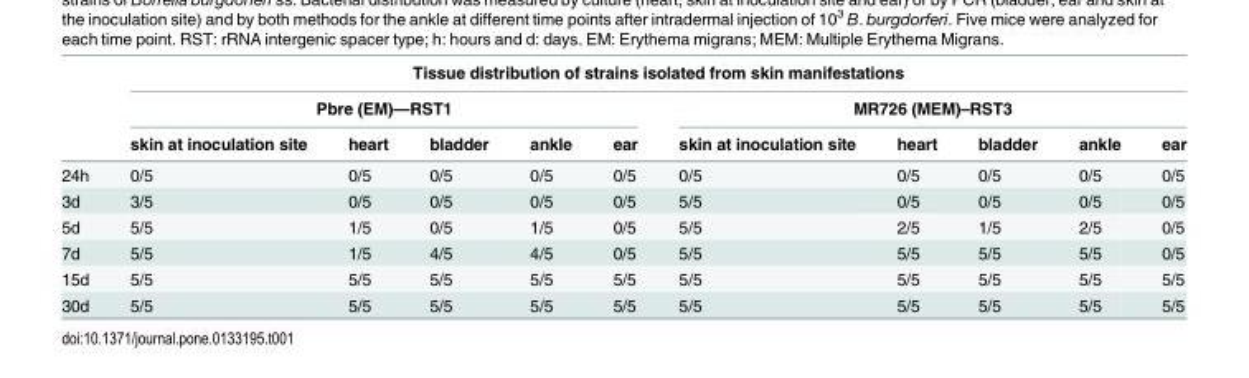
<table><thead><tr><td rowspan="3"></td><td colspan="10">Tissue distribution of strains isolated from skin manifestations</td></tr><tr><td colspan="5">Pbre (EM)—RST1</td><td colspan="5">MR726 (MEM)–RST3</td></tr><tr><td>skin at inoculation site</td><td>heart</td><td>bladder</td><td>ankle</td><td>ear</td><td>skin at inoculation site</td><td>heart</td><td>bladder</td><td>ankle</td><td>ear</td></tr></thead><tbody><tr><td>24h</td><td>0/5</td><td>0/5</td><td>0/5</td><td>0/5</td><td>0/5</td><td>0/5</td><td>0/5</td><td>0/5</td><td>0/5</td><td>0/5</td></tr><tr><td>3d</td><td>3/5</td><td>0/5</td><td>0/5</td><td>0/5</td><td>0/5</td><td>5/5</td><td>0/5</td><td>0/5</td><td>0/5</td><td>0/5</td></tr><tr><td>5d</td><td>5/5</td><td>1/5</td><td>0/5</td><td>1/5</td><td>0/5</td><td>5/5</td><td>2/5</td><td>1/5</td><td>2/5</td><td>0/5</td></tr><tr><td>7d</td><td>5/5</td><td>1/5</td><td>4/5</td><td>4/5</td><td>0/5</td><td>5/5</td><td>5/5</td><td>5/5</td><td>5/5</td><td>0/5</td></tr><tr><td>15d</td><td>5/5</td><td>5/5</td><td>5/5</td><td>5/5</td><td>5/5</td><td>5/5</td><td>5/5</td><td>5/5</td><td>5/5</td><td>5/5</td></tr><tr><td>30d</td><td>5/5</td><td>5/5</td><td>5/5</td><td>5/5</td><td>5/5</td><td>5/5</td><td>5/5</td><td>5/5</td><td>5/5</td><td>5/5</td></tr></tbody></table>